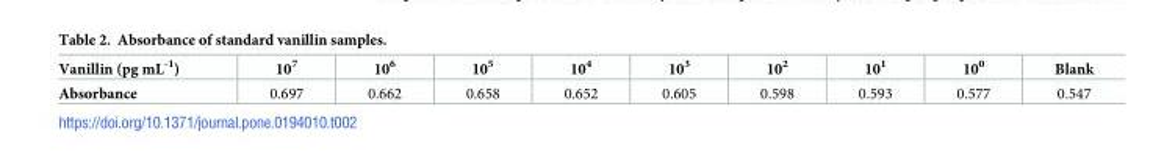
<table><thead><tr><td>Vanillin (pg mL<sup>-1</sup>)</td><td>10<sup>7</sup></td><td>10<sup>6</sup></td><td>10<sup>5</sup></td><td>10<sup>4</sup></td><td>10<sup>3</sup></td><td>10<sup>2</sup></td><td>10<sup>1</sup></td><td>10<sup>0</sup></td><td>Blank</td></tr></thead><tbody><tr><td>Absorbance</td><td>0.697</td><td>0.662</td><td>0.658</td><td>0.652</td><td>0.605</td><td>0.598</td><td>0.593</td><td>0.577</td><td>0.547</td></tr></tbody></table>